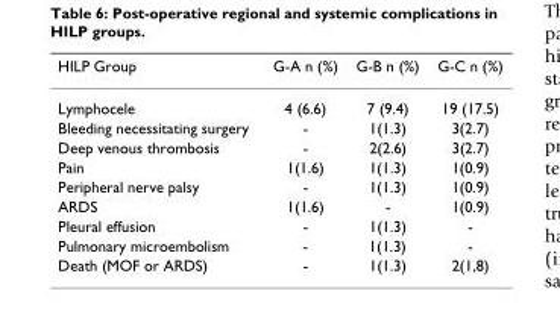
<table><thead><tr><td>HILP Group</td><td>G-A n (%)</td><td>G-B n (%)</td><td>G-C n (%)</td></tr></thead><tbody><tr><td>Lymphocele</td><td>4 (6.6)</td><td>7 (9.4)</td><td>19 (17.5)</td></tr><tr><td>Bleeding necessitating surgery</td><td>-</td><td>1(1.3)</td><td>3(2.7)</td></tr><tr><td>Deep venous thrombosis</td><td>-</td><td>2(2.6)</td><td>3(2.7)</td></tr><tr><td>Pain</td><td>1(1.6)</td><td>1(1.3)</td><td>1(0.9)</td></tr><tr><td>Peripheral nerve palsy</td><td>-</td><td>1(1.3)</td><td>1(0.9)</td></tr><tr><td>ARDS</td><td>1(1.6)</td><td>-</td><td>1(0.9)</td></tr><tr><td>Pleural effusion</td><td>-</td><td>1(1.3)</td><td>-</td></tr><tr><td>Pulmonary microembolism</td><td>-</td><td>1(1.3)</td><td>-</td></tr><tr><td>Death (MOF or ARDS)</td><td>-</td><td>1(1.3)</td><td>2(1,8)</td></tr></tbody></table>